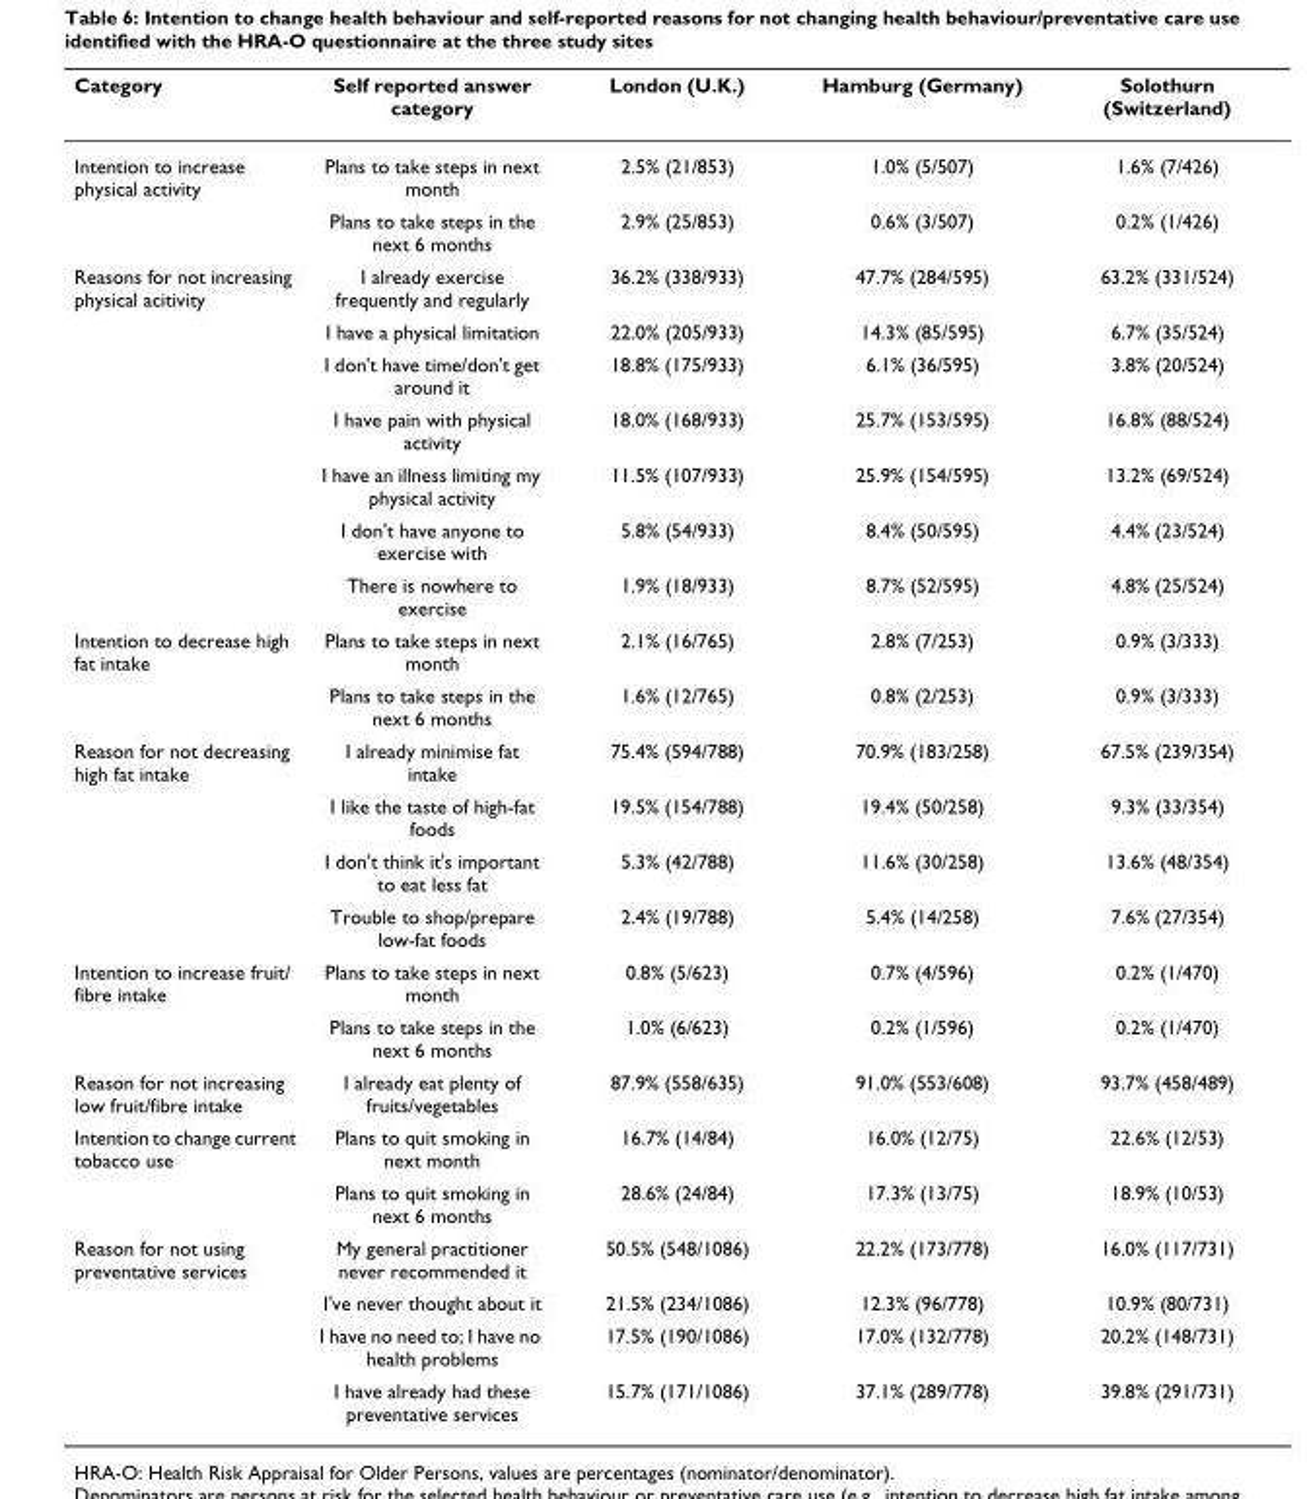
<table><thead><tr><td>Category</td><td>Self reported answer category</td><td>London (U.K.)</td><td>Hamburg (Germany)</td><td>Solothurn (Switzerland)</td></tr></thead><tbody><tr><td rowspan="2">Intention to increase physical activity</td><td>Plans to take steps in next month</td><td>2.5% (21/853)</td><td>1.0% (5/507)</td><td>1.6% (7/426)</td></tr><tr><td>Plans to take steps in the next 6 months</td><td>2.9% (25/853)</td><td>0.6% (3/507)</td><td>0.2% (1/426)</td></tr><tr><td rowspan="7">Reasons for not increasing physical acitivity</td><td>I already exercise frequently and regularly</td><td>36.2% (338/933)</td><td>47.7% (284/595)</td><td>63.2% (331/524)</td></tr><tr><td>I have a physical limitation</td><td>22.0% (205/933)</td><td>14.3% (85/595)</td><td>6.7% (35/524)</td></tr><tr><td>I don&#x27;t have time/don&#x27;t get around it</td><td>18.8% (175/933)</td><td>6.1% (36/595)</td><td>3.8% (20/524)</td></tr><tr><td>I have pain with physical activity</td><td>18.0% (168/933)</td><td>25.7% (153/595)</td><td>16.8% (88/524)</td></tr><tr><td>I have an illness limiting my physical activity</td><td>11.5% (107/933)</td><td>25.9% (154/595)</td><td>13.2% (69/524)</td></tr><tr><td>I don&#x27;t have anyone to exercise with</td><td>5.8% (54/933)</td><td>8.4% (50/595)</td><td>4.4% (23/524)</td></tr><tr><td>There is nowhere to exercise</td><td>1.9% (18/933)</td><td>8.7% (52/595)</td><td>4.8% (25/524)</td></tr><tr><td rowspan="2">Intention to decrease high fat intake</td><td>Plans to take steps in next month</td><td>2.1% (16/765)</td><td>2.8% (7/253)</td><td>0.9% (3/333)</td></tr><tr><td>Plans to take steps in the next 6 months</td><td>1.6% (12/765)</td><td>0.8% (2/253)</td><td>0.9% (3/333)</td></tr><tr><td rowspan="4">Reason for not decreasing high fat intake</td><td>I already minimise fat intake</td><td>75.4% (594/788)</td><td>70.9% (183/258)</td><td>67.5% (239/354)</td></tr><tr><td>I like the taste of high-fat foods</td><td>19.5% (154/788)</td><td>19.4% (50/258)</td><td>9.3% (33/354)</td></tr><tr><td>I don&#x27;t think it&#x27;s important to eat less fat</td><td>5.3% (42/788)</td><td>11.6% (30/258)</td><td>13.6% (48/354)</td></tr><tr><td>Trouble to shop/prepare low-fat foods</td><td>2.4% (19/788)</td><td>5.4% (14/258)</td><td>7.6% (27/354)</td></tr><tr><td rowspan="2">Intention to increase fruit/ fibre intake</td><td>Plans to take steps in next month</td><td>0.8% (5/623)</td><td>0.7% (4/596)</td><td>0.2% (1/470)</td></tr><tr><td>Plans to take steps in the next 6 months</td><td>1.0% (6/623)</td><td>0.2% (1/596)</td><td>0.2% (1/470)</td></tr><tr><td>Reason for not increasing low fruit/fibre intake</td><td>I already eat plenty of fruits/vegetables</td><td>87.9% (558/635)</td><td>91.0% (553/608)</td><td>93.7% (458/489)</td></tr><tr><td rowspan="2">Intention to change current tobacco use</td><td>Plans to quit smoking in next month</td><td>16.7% (14/84)</td><td>16.0% (12/75)</td><td>22.6% (12/53)</td></tr><tr><td>Plans to quit smoking in next 6 months</td><td>28.6% (24/84)</td><td>17.3% (13/75)</td><td>18.9% (10/53)</td></tr><tr><td rowspan="4">Reason for not using preventative services</td><td>My general practitioner never recommended it</td><td>50.5% (548/1086)</td><td>22.2% (173/778)</td><td>16.0% (117/731)</td></tr><tr><td>I&#x27;ve never thought about it</td><td>21.5% (234/1086)</td><td>12.3% (96/778)</td><td>10.9% (80/731)</td></tr><tr><td>I have no need to; I have no health problems</td><td>17.5% (190/1086)</td><td>17.0% (132/778)</td><td>20.2% (148/731)</td></tr><tr><td>I have already had these preventative services</td><td>15.7% (171/1086)</td><td>37.1% (289/778)</td><td>39.8% (291/731)</td></tr></tbody></table>